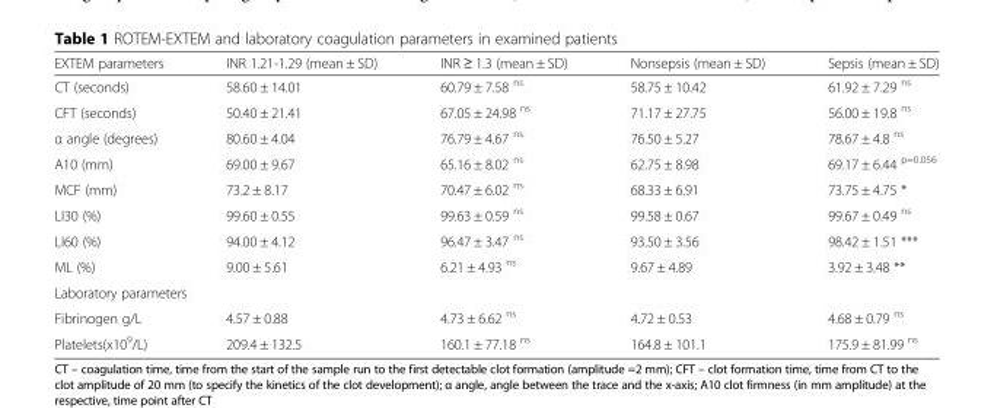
<table><thead><tr><td>EXTEM parameters</td><td>INR 1.21-1.29 (mean ± SD)</td><td>INR ≥ 1.3 (mean ± SD)</td><td>Nonsepsis (mean ± SD)</td><td>Sepsis (mean ± SD)</td></tr></thead><tbody><tr><td>CT (seconds)</td><td>58.60 ± 14.01</td><td>60.79 ± 7.58 <sup>ns</sup></td><td>58.75 ± 10.42</td><td>61.92 ± 7.29 <sup>ns</sup></td></tr><tr><td>CFT (seconds)</td><td>50.40 ± 21.41</td><td>67.05 ± 24.98 <sup>ns</sup></td><td>71.17 ± 27.75</td><td>56.00 ± 19.8 <sup>ns</sup></td></tr><tr><td>α angle (degrees)</td><td>80.60 ± 4.04</td><td>76.79 ± 4.67 <sup>ns</sup></td><td>76.50 ± 5.27</td><td>78.67 ± 4.8 <sup>ns</sup></td></tr><tr><td>A10 (mm)</td><td>69.00 ± 9.67</td><td>65.16 ± 8.02 <sup>ns</sup></td><td>62.75 ± 8.98</td><td>69.17 ± 6.44 <sup>p=0.056</sup></td></tr><tr><td>MCF (mm)</td><td>73.2 ± 8.17</td><td>70.47 ± 6.02 <sup>ns</sup></td><td>68.33 ± 6.91</td><td>73.75 ± 4.75 *</td></tr><tr><td>LI30 (%)</td><td>99.60 ± 0.55</td><td>99.63 ± 0.59 <sup>ns</sup></td><td>99.58 ± 0.67</td><td>99.67 ± 0.49 <sup>ns</sup></td></tr><tr><td>LI60 (%)</td><td>94.00 ± 4.12</td><td>96.47 ± 3.47 <sup>ns</sup></td><td>93.50 ± 3.56</td><td>98.42 ± 1.51 ***</td></tr><tr><td>ML (%)</td><td>9.00 ± 5.61</td><td>6.21 ± 4.93 <sup>ns</sup></td><td>9.67 ± 4.89</td><td>3.92 ± 3.48 **</td></tr><tr><td colspan="5">Laboratory parameters</td></tr><tr><td>Fibrinogen g/L</td><td>4.57 ± 0.88</td><td>4.73 ± 6.62 <sup>ns</sup></td><td>4.72 ± 0.53</td><td>4.68 ± 0.79 <sup>ns</sup></td></tr><tr><td>Platelets(x10<sup>9</sup>/L)</td><td>209.4 ± 132.5</td><td>160.1 ± 77.18 <sup>ns</sup></td><td>164.8 ± 101.1</td><td>175.9 ± 81.99 <sup>ns</sup></td></tr></tbody></table>